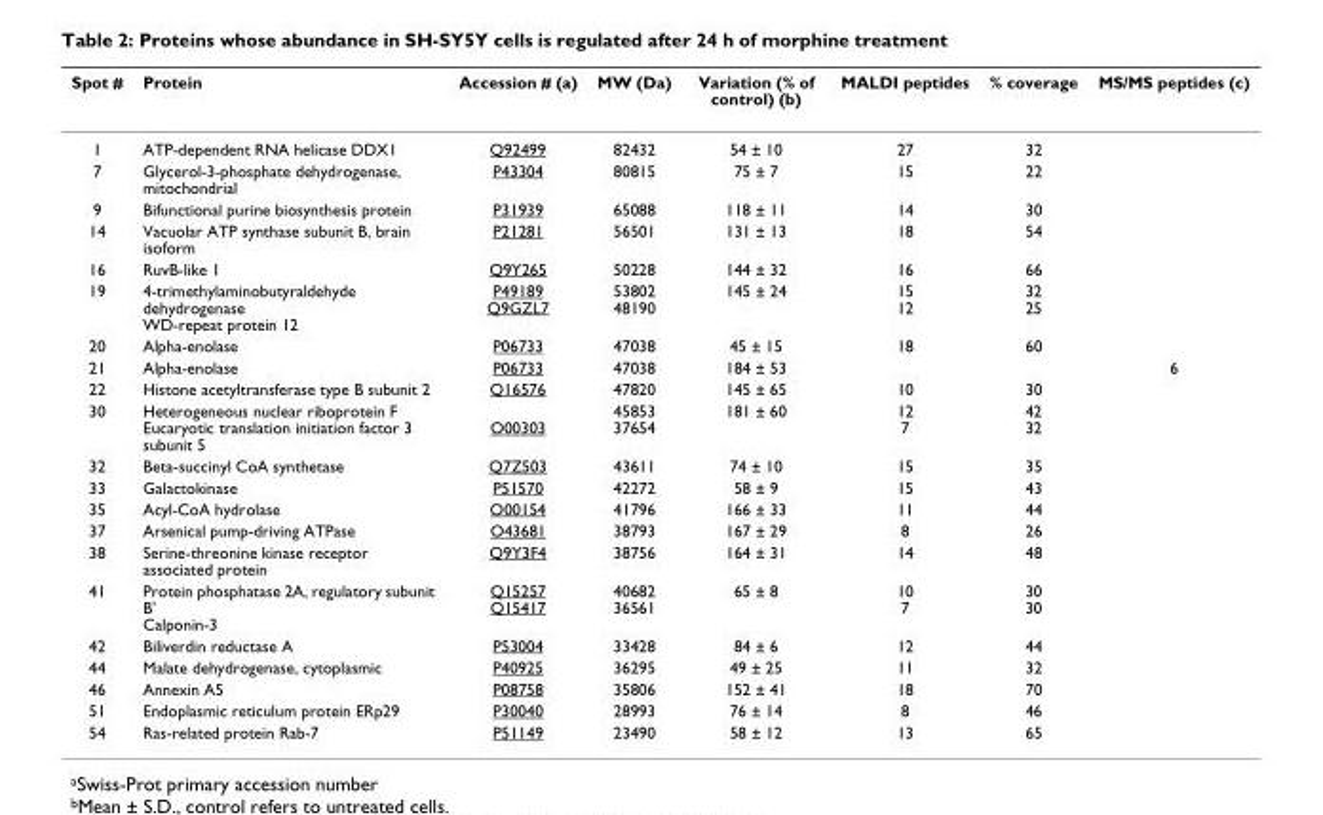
<table><thead><tr><td>Spot #</td><td>Protein</td><td>Accession # (a)</td><td>MW (Da)</td><td>Variation (% of control) (b)</td><td>MALDI peptides</td><td>% coverage</td><td>MS/MS peptides (c)</td></tr></thead><tbody><tr><td>1</td><td>ATP-dependent RNA helicase DDX1</td><td>Q92499</td><td>82432</td><td>54 ± 10</td><td>27</td><td>32</td><td></td></tr><tr><td>7</td><td>Glycerol-3-phosphate dehydrogenase, mitochondrial</td><td>P43304</td><td>80815</td><td>75 ± 7</td><td>15</td><td>22</td><td></td></tr><tr><td>9</td><td>Bifunctional purine biosynthesis protein</td><td>P31939</td><td>65088</td><td>118 ± 11</td><td>14</td><td>30</td><td></td></tr><tr><td>14</td><td>Vacuolar ATP synthase subunit B, brain isoform</td><td>P21281</td><td>56501</td><td>131 ± 13</td><td>18</td><td>54</td><td></td></tr><tr><td>16</td><td>RuvB-like 1</td><td>Q9Y265</td><td>50228</td><td>144 ± 32</td><td>16</td><td>66</td><td></td></tr><tr><td>19</td><td>4-trimethylaminobutyraldehyde dehydrogenase WD-repeat protein 12</td><td>P49189 Q9GZL7</td><td>53802 48190</td><td>145 ± 24</td><td>15 12</td><td>32 25</td><td></td></tr><tr><td>20</td><td>Alpha-enolase</td><td>P06733</td><td>47038</td><td>45 ± 15</td><td>18</td><td>60</td><td></td></tr><tr><td>21</td><td>Alpha-enolase</td><td>P06733</td><td>47038</td><td>184 ± 53</td><td></td><td></td><td>6</td></tr><tr><td>22</td><td>Histone acetyltransferase type B subunit 2</td><td>Q16576</td><td>47820</td><td>145 ± 65</td><td>10</td><td>30</td><td></td></tr><tr><td>30</td><td>Heterogeneous nuclear riboprotein F Eucaryotic translation initiation factor 3 subunit 5</td><td>O00303</td><td>45853 37654</td><td>181 ± 60</td><td>12 7</td><td>42 32</td><td></td></tr><tr><td>32</td><td>Beta-succinyl CoA synthetase</td><td>Q7Z503</td><td>43611</td><td>74 ± 10</td><td>15</td><td>35</td><td></td></tr><tr><td>33</td><td>Galactokinase</td><td>P51570</td><td>42272</td><td>58 ± 9</td><td>15</td><td>43</td><td></td></tr><tr><td>35</td><td>Acyl-CoA hydrolase</td><td>O00154</td><td>41796</td><td>166 ± 33</td><td>11</td><td>44</td><td></td></tr><tr><td>37</td><td>Arsenical pump-driving ATPase</td><td>O43681</td><td>38793</td><td>167 ± 29</td><td>8</td><td>26</td><td></td></tr><tr><td>38</td><td>Serine-threonine kinase receptor associated protein</td><td>Q9Y3F4</td><td>38756</td><td>164 ± 31</td><td>14</td><td>48</td><td></td></tr><tr><td>41</td><td>Protein phosphatase 2A, regulatory subunit B&#x27; Calponin-3</td><td>Q15257 Q15417</td><td>40682 36561</td><td>65 ± 8</td><td>10 7</td><td>30 30</td><td></td></tr><tr><td>42</td><td>Biliverdin reductase A</td><td>P53004</td><td>33428</td><td>84 ± 6</td><td>12</td><td>44</td><td></td></tr><tr><td>44</td><td>Malate dehydrogenase, cytoplasmic</td><td>P40925</td><td>36295</td><td>49 ± 25</td><td>11</td><td>32</td><td></td></tr><tr><td>46</td><td>Annexin A5</td><td>P08758</td><td>35806</td><td>152 ± 41</td><td>18</td><td>70</td><td></td></tr><tr><td>51</td><td>Endoplasmic reticulum protein ERp29</td><td>P30040</td><td>28993</td><td>76 ± 14</td><td>8</td><td>46</td><td></td></tr><tr><td>54</td><td>Ras-related protein Rab-7</td><td>P51149</td><td>23490</td><td>58 ± 12</td><td>13</td><td>65</td><td></td></tr></tbody></table>